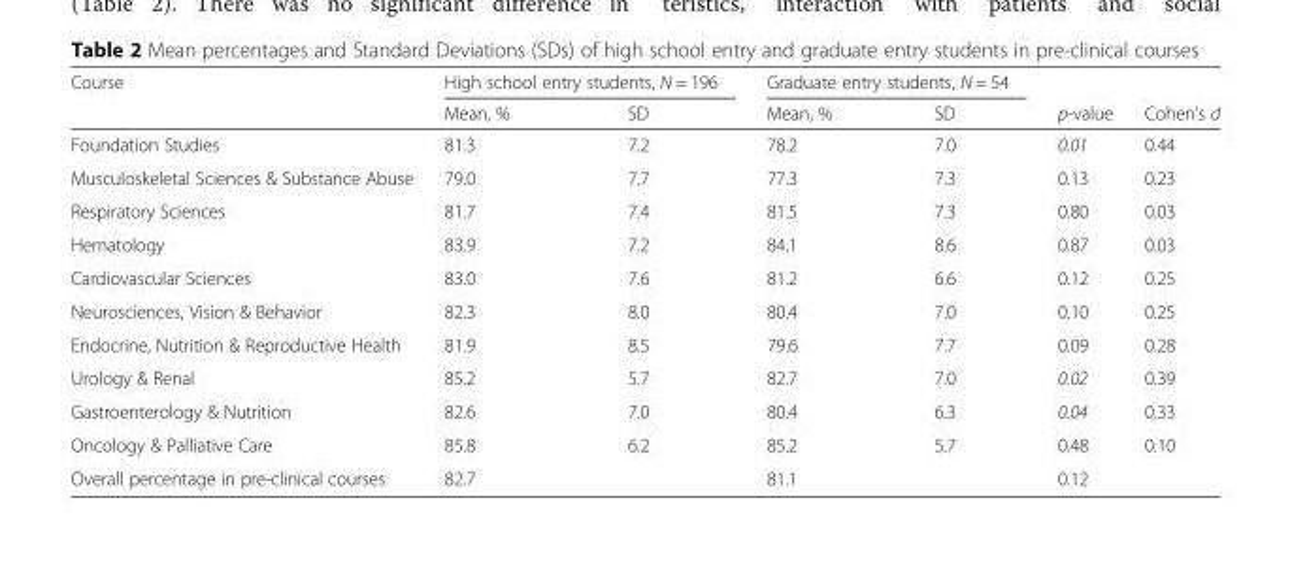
<table><thead><tr><td rowspan="2">Course</td><td colspan="2">High school entry students, N = 196</td><td colspan="2">Graduate entry students, N = 54</td><td rowspan="2">p-value</td><td rowspan="2">Cohen’s d</td></tr><tr><td>Mean, %</td><td>SD</td><td>Mean, %</td><td>SD</td></tr></thead><tbody><tr><td>Foundation Studies</td><td>81.3</td><td>7.2</td><td>78.2</td><td>7.0</td><td>0.01</td><td>0.44</td></tr><tr><td>Musculoskeletal Sciences &amp; Substance Abuse</td><td>79.0</td><td>7.7</td><td>77.3</td><td>7.3</td><td>0.13</td><td>0.23</td></tr><tr><td>Respiratory Sciences</td><td>81.7</td><td>7.4</td><td>81.5</td><td>7.3</td><td>0.80</td><td>0.03</td></tr><tr><td>Hematology</td><td>83.9</td><td>7.2</td><td>84.1</td><td>8.6</td><td>0.87</td><td>0.03</td></tr><tr><td>Cardiovascular Sciences</td><td>83.0</td><td>7.6</td><td>81.2</td><td>6.6</td><td>0.12</td><td>0.25</td></tr><tr><td>Neurosciences, Vision &amp; Behavior</td><td>82.3</td><td>8.0</td><td>80.4</td><td>7.0</td><td>0.10</td><td>0.25</td></tr><tr><td>Endocrine, Nutrition &amp; Reproductive Health</td><td>81.9</td><td>8.5</td><td>79.6</td><td>7.7</td><td>0.09</td><td>0.28</td></tr><tr><td>Urology &amp; Renal</td><td>85.2</td><td>5.7</td><td>82.7</td><td>7.0</td><td>0.02</td><td>0.39</td></tr><tr><td>Gastroenterology &amp; Nutrition</td><td>82.6</td><td>7.0</td><td>80.4</td><td>6.3</td><td>0.04</td><td>0.33</td></tr><tr><td>Oncology &amp; Palliative Care</td><td>85.8</td><td>6.2</td><td>85.2</td><td>5.7</td><td>0.48</td><td>0.10</td></tr><tr><td>Overall percentage in pre-clinical courses</td><td colspan="2">82.7</td><td colspan="2">81.1</td><td>0.12</td><td></td></tr></tbody></table>